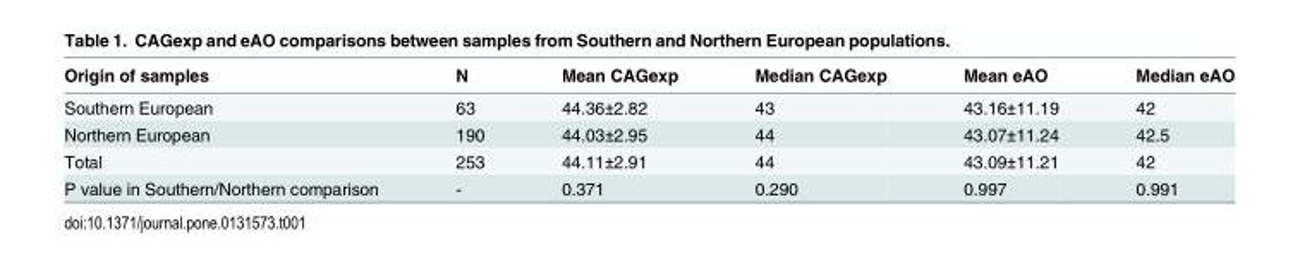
<table><thead><tr><td>Origin of samples</td><td>N</td><td>Mean CAGexp</td><td>Median CAGexp</td><td>Mean eAO</td><td>Median eAO</td></tr></thead><tbody><tr><td>Southern European</td><td>63</td><td>44.36±2.82</td><td>43</td><td>43.16±11.19</td><td>42</td></tr><tr><td>Northern European</td><td>190</td><td>44.03±2.95</td><td>44</td><td>43.07±11.24</td><td>42.5</td></tr><tr><td>Total</td><td>253</td><td>44.11±2.91</td><td>44</td><td>43.09±11.21</td><td>42</td></tr><tr><td>P value in Southern/Northern comparison</td><td>-</td><td>0.371</td><td>0.290</td><td>0.997</td><td>0.991</td></tr></tbody></table>